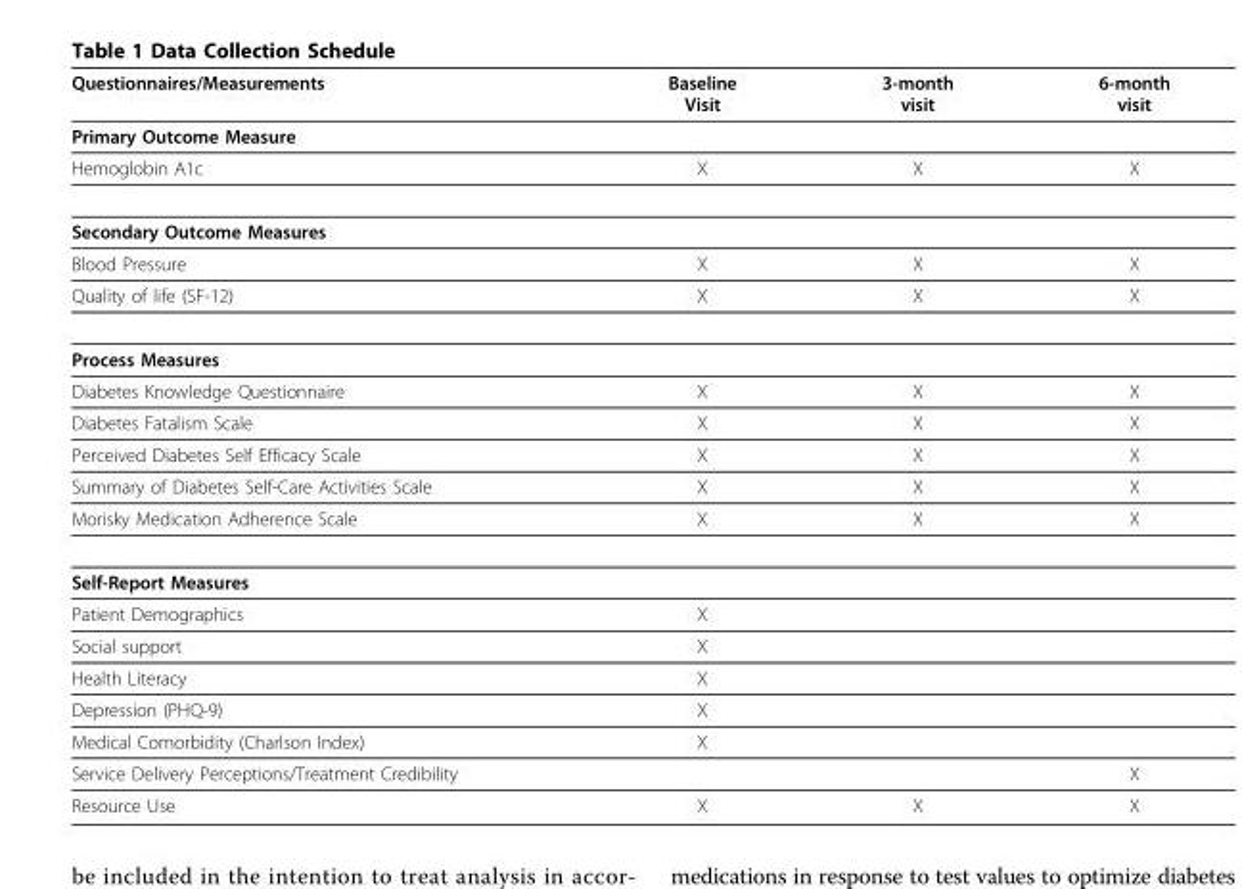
<table><thead><tr><td>Questionnaires/Measurements</td><td>Baseline Visit</td><td>3-month visit</td><td>6-month visit</td></tr></thead><tbody><tr><td colspan="4">Primary Outcome Measure</td></tr><tr><td>Hemoglobin A1c</td><td>X</td><td>X</td><td>X</td></tr><tr><td colspan="4">Secondary Outcome Measures</td></tr><tr><td>Blood Pressure</td><td>X</td><td>X</td><td>X</td></tr><tr><td>Quality of life (SF-12)</td><td>X</td><td>X</td><td>X</td></tr><tr><td colspan="4">Process Measures</td></tr><tr><td>Diabetes Knowledge Questionnaire</td><td>X</td><td>X</td><td>X</td></tr><tr><td>Diabetes Fatalism Scale</td><td>X</td><td>X</td><td>X</td></tr><tr><td>Perceived Diabetes Self Efficacy Scale</td><td>X</td><td>X</td><td>X</td></tr><tr><td>Summary of Diabetes Self-Care Activities Scale</td><td>X</td><td>X</td><td>X</td></tr><tr><td>Morisky Medication Adherence Scale</td><td>X</td><td>X</td><td>X</td></tr><tr><td colspan="4">Self-Report Measures</td></tr><tr><td>Patient Demographics</td><td>X</td><td></td><td></td></tr><tr><td>Social support</td><td>X</td><td></td><td></td></tr><tr><td>Health Literacy</td><td>X</td><td></td><td></td></tr><tr><td>Depression (PHQ-9)</td><td>X</td><td></td><td></td></tr><tr><td>Medical Comorbidity (Charlson Index)</td><td>X</td><td></td><td></td></tr><tr><td>Service Delivery Perceptions/Treatment Credibility</td><td></td><td></td><td>X</td></tr><tr><td>Resource Use</td><td>X</td><td>X</td><td>X</td></tr></tbody></table>